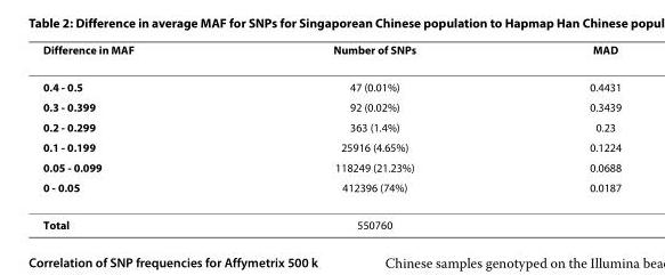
<table><thead><tr><td>Difference in MAF</td><td>Number of SNPs</td><td>MAD</td></tr></thead><tbody><tr><td>0.4 - 0.5</td><td>47 (0.01%)</td><td>0.4431</td></tr><tr><td>0.3 - 0.399</td><td>92 (0.02%)</td><td>0.3439</td></tr><tr><td>0.2 - 0.299</td><td>363 (1.4%)</td><td>0.23</td></tr><tr><td>0.1 - 0.199</td><td>25916 (4.65%)</td><td>0.1224</td></tr><tr><td>0.05 - 0.099</td><td>118249 (21.23%)</td><td>0.0688</td></tr><tr><td>0 - 0.05</td><td>412396 (74%)</td><td>0.0187</td></tr><tr><td>Total</td><td>550760</td><td></td></tr></tbody></table>